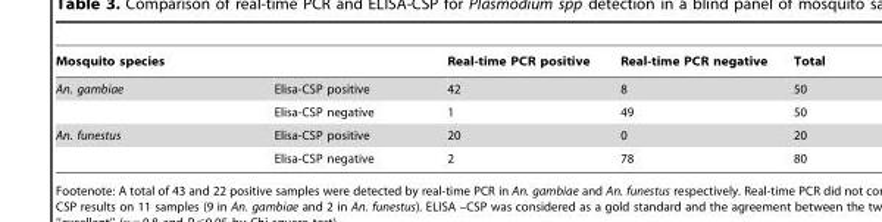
<table><thead><tr><td>Mosquito species</td><td></td><td>Real-time PCR positive</td><td>Real-time PCR negative</td><td>Total</td></tr></thead><tbody><tr><td rowspan="2">An. gambiae</td><td>Elisa-CSP positive</td><td>42</td><td>8</td><td>50</td></tr><tr><td>Elisa-CSP negative</td><td>1</td><td>49</td><td>50</td></tr><tr><td rowspan="2">An. funestus</td><td>Elisa-CSP positive</td><td>20</td><td>0</td><td>20</td></tr><tr><td>Elisa-CSP negative</td><td>2</td><td>78</td><td>80</td></tr></tbody></table>